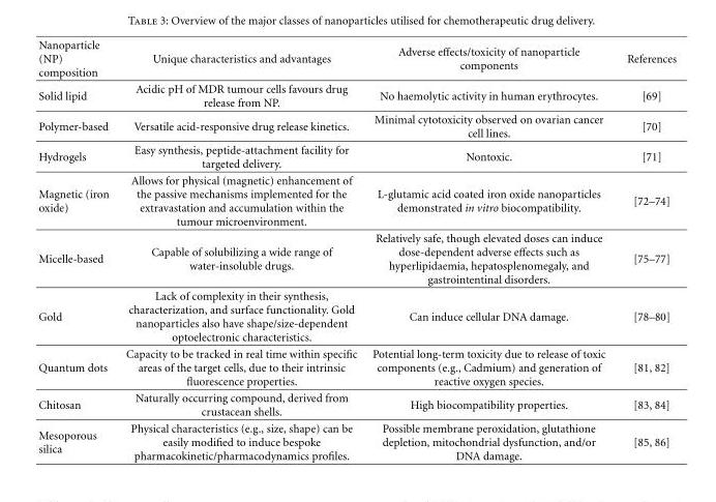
<table><thead><tr><td>Nanoparticle (NP) composition</td><td>Unique characteristics and advantages</td><td>Adverse effects/toxicity of nanoparticle components</td><td>References</td></tr></thead><tbody><tr><td>Solid lipid</td><td>Acidic pH of MDR tumour cells favours drug release from NP.</td><td>No haemolytic activity in human erythrocytes.</td><td>[69]</td></tr><tr><td>Polymer-based</td><td>Versatile acid-responsive drug release kinetics.</td><td>Minimal cytotoxicity observed on ovarian cancer cell lines.</td><td>[70]</td></tr><tr><td>Hydrogels</td><td>Easy synthesis, peptide-attachment facility for targeted delivery.</td><td>Nontoxic.</td><td>[71]</td></tr><tr><td>Magnetic (iron oxide)</td><td>Allows for physical (magnetic) enhancement of the passive mechanisms implemented for the extravastation and accumulation within the tumour microenvironment.</td><td>L-glutamic acid coated iron oxide nanoparticles demonstrated in vitro biocompatibility.</td><td>[72–74]</td></tr><tr><td>Micelle-based</td><td>Capable of solubilizing a wide range of water-insoluble drugs.</td><td>Relatively safe, though elevated doses can induce dose-dependent adverse effects such as hyperlipidaemia, hepatosplenomegaly, and gastrointentinal disorders.</td><td>[75–77]</td></tr><tr><td>Gold</td><td>Lack of complexity in their synthesis, characterization, and surface functionality. Gold nanoparticles also have shape/size-dependent optoelectronic characteristics.</td><td>Can induce cellular DNA damage.</td><td>[78–80]</td></tr><tr><td>Quantum dots</td><td>Capacity to be tracked in real time within specific areas of the target cells, due to their intrinsic fluorescence properties.</td><td>Potential long-term toxicity due to release of toxic components (e.g., Cadmium) and generation of reactive oxygen species.</td><td>[81, 82]</td></tr><tr><td>Chitosan</td><td>Naturally occurring compound, derived from crustacean shells.</td><td>High biocompatibility properties.</td><td>[83, 84]</td></tr><tr><td>Mesoporous silica</td><td>Physical characteristics (e.g., size, shape) can be easily modified to induce bespoke pharmacokinetic/pharmacodynamics profiles.</td><td>Possible membrane peroxidation, glutathione depletion, mitochondrial dysfunction, and/or DNA damage.</td><td>[85, 86]</td></tr></tbody></table>